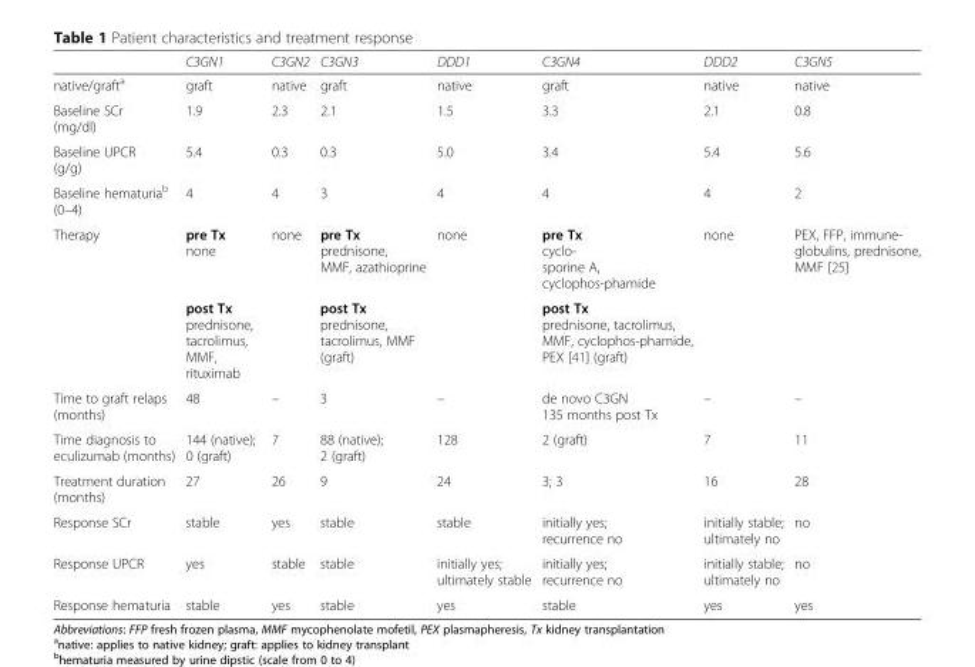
<table><thead><tr><td></td><td>C3GN1</td><td>C3GN2</td><td>C3GN3</td><td>DDD1</td><td>C3GN4</td><td>DDD2</td><td>C3GN5</td></tr></thead><tbody><tr><td>native/graft<sup>a</sup></td><td>graft</td><td>native</td><td>graft</td><td>native</td><td>graft</td><td>native</td><td>native</td></tr><tr><td>Baseline SCr (mg/dl)</td><td>1.9</td><td>2.3</td><td>2.1</td><td>1.5</td><td>3.3</td><td>2.1</td><td>0.8</td></tr><tr><td>Baseline UPCR (g/g)</td><td>5.4</td><td>0.3</td><td>0.3</td><td>5.0</td><td>3.4</td><td>5.4</td><td>5.6</td></tr><tr><td>Baseline hematuria<sup>b</sup> (0–4)</td><td>4</td><td>4</td><td>3</td><td>4</td><td>4</td><td>4</td><td>2</td></tr><tr><td rowspan="2">Therapy</td><td>pre Tx none</td><td>none</td><td>pre Tx prednisone, MMF, azathioprine</td><td>none</td><td>pre Tx cyclo- sporine A, cyclophos-phamide</td><td>none</td><td>PEX, FFP, immune- globulins, prednisone, MMF [25]</td></tr><tr><td>post Tx prednisone, tacrolimus, MMF, rituximab</td><td></td><td>post Tx prednisone, tacrolimus, MMF (graft)</td><td></td><td>post Tx prednisone, tacrolimus, MMF, cyclophos-phamide, PEX [41] (graft)</td><td></td><td></td></tr><tr><td>Time to graft relaps (months)</td><td>48</td><td>–</td><td>3</td><td>–</td><td>de novo C3GN 135 months post Tx</td><td>–</td><td>–</td></tr><tr><td>Time diagnosis to eculizumab (months)</td><td>144 (native); 0 (graft)</td><td>7</td><td>88 (native); 2 (graft)</td><td>128</td><td>2 (graft)</td><td>7</td><td>11</td></tr><tr><td>Treatment duration (months)</td><td>27</td><td>26</td><td>9</td><td>24</td><td>3; 3</td><td>16</td><td>28</td></tr><tr><td>Response SCr</td><td>stable</td><td>yes</td><td>stable</td><td>stable</td><td>initially yes; recurrence no</td><td>initially stable; ultimately no</td><td>no</td></tr><tr><td>Response UPCR</td><td>yes</td><td>stable</td><td>stable</td><td>initially yes; ultimately stable</td><td>initially yes; recurrence no</td><td>initially stable; ultimately no</td><td>no</td></tr><tr><td>Response hematuria</td><td>stable</td><td>yes</td><td>stable</td><td>yes</td><td>stable</td><td>yes</td><td>yes</td></tr></tbody></table>